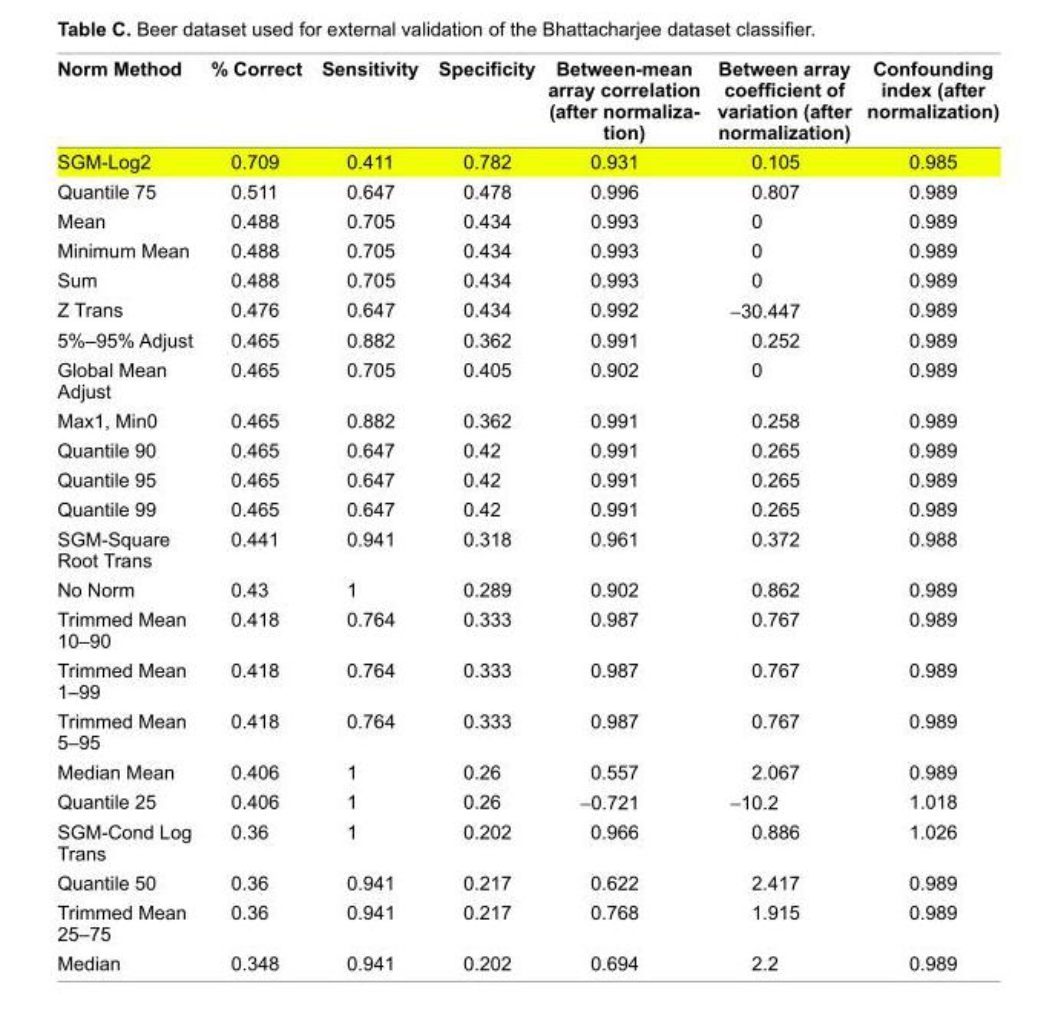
<table><thead><tr><td>Norm Method</td><td>% Correct</td><td>Sensitivity</td><td>Specifi city</td><td>Between-mean array correlation (after normaliza- tion)</td><td>Between array coeffi cient of variation (after normalization)</td><td>Confounding index (after normalization)</td></tr></thead><tbody><tr><td>SGM-Log2</td><td>0.709</td><td>0.411</td><td>0.782</td><td>0.931</td><td>0.105</td><td>0.985</td></tr><tr><td>Quantile 75</td><td>0.511</td><td>0.647</td><td>0.478</td><td>0.996</td><td>0.807</td><td>0.989</td></tr><tr><td>Mean</td><td>0.488</td><td>0.705</td><td>0.434</td><td>0.993</td><td>0</td><td>0.989</td></tr><tr><td>Minimum Mean</td><td>0.488</td><td>0.705</td><td>0.434</td><td>0.993</td><td>0</td><td>0.989</td></tr><tr><td>Sum</td><td>0.488</td><td>0.705</td><td>0.434</td><td>0.993</td><td>0</td><td>0.989</td></tr><tr><td>Z Trans</td><td>0.476</td><td>0.647</td><td>0.434</td><td>0.992</td><td>−30.447</td><td>0.989</td></tr><tr><td>5%–95% Adjust</td><td>0.465</td><td>0.882</td><td>0.362</td><td>0.991</td><td>0.252</td><td>0.989</td></tr><tr><td>Global Mean Adjust</td><td>0.465</td><td>0.705</td><td>0.405</td><td>0.902</td><td>0</td><td>0.989</td></tr><tr><td>Max1, Min0</td><td>0.465</td><td>0.882</td><td>0.362</td><td>0.991</td><td>0.258</td><td>0.989</td></tr><tr><td>Quantile 90</td><td>0.465</td><td>0.647</td><td>0.42</td><td>0.991</td><td>0.265</td><td>0.989</td></tr><tr><td>Quantile 95</td><td>0.465</td><td>0.647</td><td>0.42</td><td>0.991</td><td>0.265</td><td>0.989</td></tr><tr><td>Quantile 99</td><td>0.465</td><td>0.647</td><td>0.42</td><td>0.991</td><td>0.265</td><td>0.989</td></tr><tr><td>SGM-Square Root Trans</td><td>0.441</td><td>0.941</td><td>0.318</td><td>0.961</td><td>0.372</td><td>0.988</td></tr><tr><td>No Norm</td><td>0.43</td><td>1</td><td>0.289</td><td>0.902</td><td>0.862</td><td>0.989</td></tr><tr><td>Trimmed Mean 10–90</td><td>0.418</td><td>0.764</td><td>0.333</td><td>0.987</td><td>0.767</td><td>0.989</td></tr><tr><td>Trimmed Mean 1–99</td><td>0.418</td><td>0.764</td><td>0.333</td><td>0.987</td><td>0.767</td><td>0.989</td></tr><tr><td>Trimmed Mean 5–95</td><td>0.418</td><td>0.764</td><td>0.333</td><td>0.987</td><td>0.767</td><td>0.989</td></tr><tr><td>Median Mean</td><td>0.406</td><td>1</td><td>0.26</td><td>0.557</td><td>2.067</td><td>0.989</td></tr><tr><td>Quantile 25</td><td>0.406</td><td>1</td><td>0.26</td><td>−0.721</td><td>−10.2</td><td>1.018</td></tr><tr><td>SGM-Cond Log Trans</td><td>0.36</td><td>1</td><td>0.202</td><td>0.966</td><td>0.886</td><td>1.026</td></tr><tr><td>Quantile 50</td><td>0.36</td><td>0.941</td><td>0.217</td><td>0.622</td><td>2.417</td><td>0.989</td></tr><tr><td>Trimmed Mean 25–75</td><td>0.36</td><td>0.941</td><td>0.217</td><td>0.768</td><td>1.915</td><td>0.989</td></tr><tr><td>Median</td><td>0.348</td><td>0.941</td><td>0.202</td><td>0.694</td><td>2.2</td><td>0.989</td></tr></tbody></table>